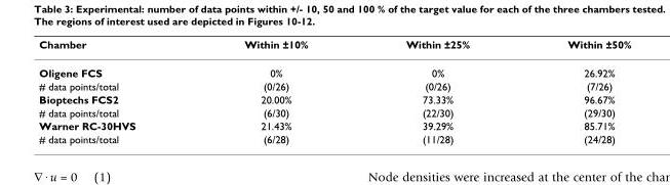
<table><thead><tr><td>Chamber</td><td>Within ±10%</td><td>Within ±25%</td><td>Within ±50%</td></tr></thead><tbody><tr><td>Oligene FCS</td><td>0%</td><td>0%</td><td>26.92%</td></tr><tr><td># data points/total</td><td>(0/26)</td><td>(0/26)</td><td>(7/26)</td></tr><tr><td>Bioptechs FCS2</td><td>20.00%</td><td>73.33%</td><td>96.67%</td></tr><tr><td># data points/total</td><td>(6/30)</td><td>(22/30)</td><td>(29/30)</td></tr><tr><td>Warner RC-30HVS</td><td>21.43%</td><td>39.29%</td><td>85.71%</td></tr><tr><td># data points/total</td><td>(6/28)</td><td>(11/28)</td><td>(24/28)</td></tr></tbody></table>